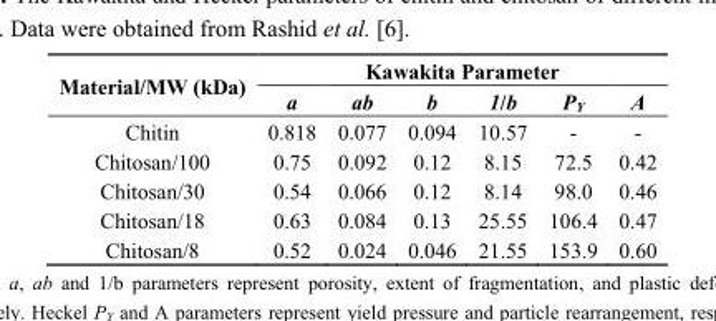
<table><thead><tr><td rowspan="2">Material/MW (kDa)</td><td colspan="6">Kawakita Parameter</td></tr><tr><td>a</td><td>ab</td><td>b</td><td>1/b</td><td>P<sub>Y</sub></td><td>A</td></tr></thead><tbody><tr><td>Chitin</td><td>0.818</td><td>0.077</td><td>0.094</td><td>10.57</td><td>-</td><td>-</td></tr><tr><td>Chitosan/100</td><td>0.75</td><td>0.092</td><td>0.12</td><td>8.15</td><td>72.5</td><td>0.42</td></tr><tr><td>Chitosan/30</td><td>0.54</td><td>0.066</td><td>0.12</td><td>8.14</td><td>98.0</td><td>0.46</td></tr><tr><td>Chitosan/18</td><td>0.63</td><td>0.084</td><td>0.13</td><td>25.55</td><td>106.4</td><td>0.47</td></tr><tr><td>Chitosan/8</td><td>0.52</td><td>0.024</td><td>0.046</td><td>21.55</td><td>153.9</td><td>0.60</td></tr></tbody></table>